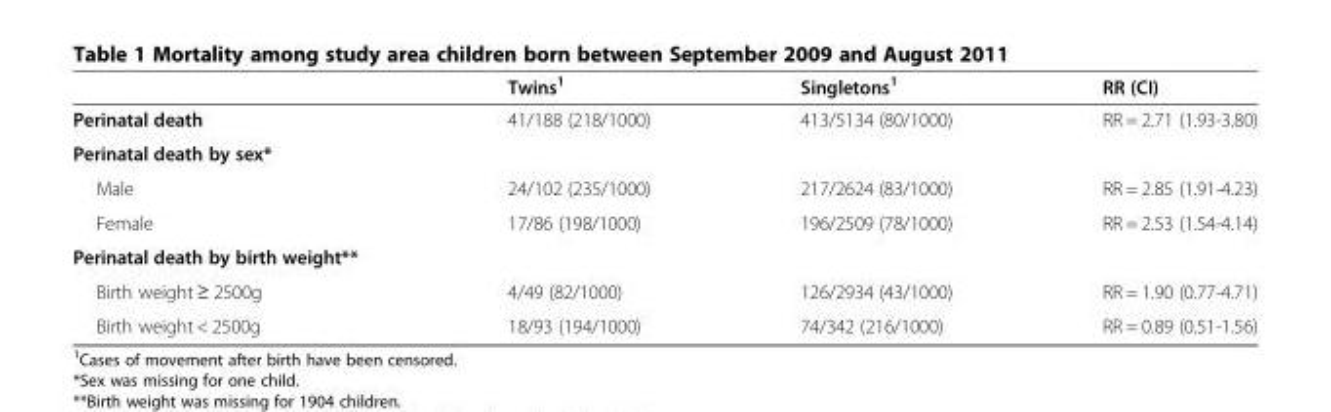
<table><thead><tr><td></td><td>Twins<sup>1</sup></td><td>Singletons<sup>1</sup></td><td>RR (CI)</td></tr></thead><tbody><tr><td>Perinatal death</td><td>41/188 (218/1000)</td><td>413/5134 (80/1000)</td><td>RR = 2.71 (1.93-3.80)</td></tr><tr><td colspan="4">Perinatal death by sex*</td></tr><tr><td>Male</td><td>24/102 (235/1000)</td><td>217/2624 (83/1000)</td><td>RR = 2.85 (1.91-4.23)</td></tr><tr><td>Female</td><td>17/86 (198/1000)</td><td>196/2509 (78/1000)</td><td>RR = 2.53 (1.54-4.14)</td></tr><tr><td colspan="4">Perinatal death by birth weight**</td></tr><tr><td>Birth weight ≥ 2500g</td><td>4/49 (82/1000)</td><td>126/2934 (43/1000)</td><td>RR = 1.90 (0.77-4.71)</td></tr><tr><td>Birth weight &lt; 2500g</td><td>18/93 (194/1000)</td><td>74/342 (216/1000)</td><td>RR = 0.89 (0.51-1.56)</td></tr></tbody></table>